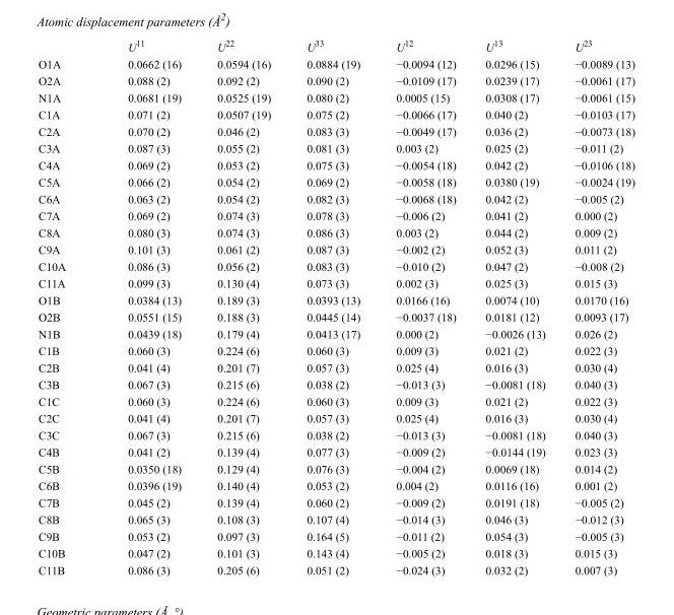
<table><thead><tr><td></td><td>U<sup>11</sup></td><td>U<sup>22</sup></td><td>U<sup>33</sup></td><td>U<sup>12</sup></td><td>U<sup>13</sup></td><td>U<sup>23</sup></td></tr></thead><tbody><tr><td>O1A</td><td>0.0662 (16)</td><td>0.0594 (16)</td><td>0.0884 (19)</td><td>−0.0094 (12)</td><td>0.0296 (15)</td><td>−0.0089 (13)</td></tr><tr><td>O2A</td><td>0.088 (2)</td><td>0.092 (2)</td><td>0.090 (2)</td><td>−0.0109 (17)</td><td>0.0239 (17)</td><td>−0.0061 (17)</td></tr><tr><td>N1A</td><td>0.0681 (19)</td><td>0.0525 (19)</td><td>0.080 (2)</td><td>0.0005 (15)</td><td>0.0308 (17)</td><td>−0.0061 (15)</td></tr><tr><td>C1A</td><td>0.071 (2)</td><td>0.0507 (19)</td><td>0.075 (2)</td><td>−0.0066 (17)</td><td>0.040 (2)</td><td>−0.0103 (17)</td></tr><tr><td>C2A</td><td>0.070 (2)</td><td>0.046 (2)</td><td>0.083 (3)</td><td>−0.0049 (17)</td><td>0.036 (2)</td><td>−0.0073 (18)</td></tr><tr><td>C3A</td><td>0.087 (3)</td><td>0.055 (2)</td><td>0.081 (3)</td><td>0.003 (2)</td><td>0.025 (2)</td><td>−0.011 (2)</td></tr><tr><td>C4A</td><td>0.069 (2)</td><td>0.053 (2)</td><td>0.075 (3)</td><td>−0.0054 (18)</td><td>0.042 (2)</td><td>−0.0106 (18)</td></tr><tr><td>C5A</td><td>0.066 (2)</td><td>0.054 (2)</td><td>0.069 (2)</td><td>−0.0058 (18)</td><td>0.0380 (19)</td><td>−0.0024 (19)</td></tr><tr><td>C6A</td><td>0.063 (2)</td><td>0.054 (2)</td><td>0.082 (3)</td><td>−0.0068 (18)</td><td>0.042 (2)</td><td>−0.005 (2)</td></tr><tr><td>C7A</td><td>0.069 (2)</td><td>0.074 (3)</td><td>0.078 (3)</td><td>−0.006 (2)</td><td>0.041 (2)</td><td>0.000 (2)</td></tr><tr><td>C8A</td><td>0.080 (3)</td><td>0.074 (3)</td><td>0.086 (3)</td><td>0.003 (2)</td><td>0.044 (2)</td><td>0.009 (2)</td></tr><tr><td>C9A</td><td>0.101 (3)</td><td>0.061 (2)</td><td>0.087 (3)</td><td>−0.002 (2)</td><td>0.052 (3)</td><td>0.011 (2)</td></tr><tr><td>C10A</td><td>0.086 (3)</td><td>0.056 (2)</td><td>0.083 (3)</td><td>−0.010 (2)</td><td>0.047 (2)</td><td>−0.008 (2)</td></tr><tr><td>C11A</td><td>0.099 (3)</td><td>0.130 (4)</td><td>0.073 (3)</td><td>0.002 (3)</td><td>0.025 (3)</td><td>0.015 (3)</td></tr><tr><td>O1B</td><td>0.0384 (13)</td><td>0.189 (3)</td><td>0.0393 (13)</td><td>0.0166 (16)</td><td>0.0074 (10)</td><td>0.0170 (16)</td></tr><tr><td>O2B</td><td>0.0551 (15)</td><td>0.188 (3)</td><td>0.0445 (14)</td><td>−0.0037 (18)</td><td>0.0181 (12)</td><td>0.0093 (17)</td></tr><tr><td>N1B</td><td>0.0439 (18)</td><td>0.179 (4)</td><td>0.0413 (17)</td><td>0.000 (2)</td><td>−0.0026 (13)</td><td>0.026 (2)</td></tr><tr><td>C1B</td><td>0.060 (3)</td><td>0.224 (6)</td><td>0.060 (3)</td><td>0.009 (3)</td><td>0.021 (2)</td><td>0.022 (3)</td></tr><tr><td>C2B</td><td>0.041 (4)</td><td>0.201 (7)</td><td>0.057 (3)</td><td>0.025 (4)</td><td>0.016 (3)</td><td>0.030 (4)</td></tr><tr><td>C3B</td><td>0.067 (3)</td><td>0.215 (6)</td><td>0.038 (2)</td><td>−0.013 (3)</td><td>−0.0081 (18)</td><td>0.040 (3)</td></tr><tr><td>C1C</td><td>0.060 (3)</td><td>0.224 (6)</td><td>0.060 (3)</td><td>0.009 (3)</td><td>0.021 (2)</td><td>0.022 (3)</td></tr><tr><td>C2C</td><td>0.041 (4)</td><td>0.201 (7)</td><td>0.057 (3)</td><td>0.025 (4)</td><td>0.016 (3)</td><td>0.030 (4)</td></tr><tr><td>C3C</td><td>0.067 (3)</td><td>0.215 (6)</td><td>0.038 (2)</td><td>−0.013 (3)</td><td>−0.0081 (18)</td><td>0.040 (3)</td></tr><tr><td>C4B</td><td>0.041 (2)</td><td>0.139 (4)</td><td>0.077 (3)</td><td>−0.009 (2)</td><td>−0.0144 (19)</td><td>0.023 (3)</td></tr><tr><td>C5B</td><td>0.0350 (18)</td><td>0.129 (4)</td><td>0.076 (3)</td><td>−0.004 (2)</td><td>0.0069 (18)</td><td>0.014 (2)</td></tr><tr><td>C6B</td><td>0.0396 (19)</td><td>0.140 (4)</td><td>0.053 (2)</td><td>0.004 (2)</td><td>0.0116 (16)</td><td>0.001 (2)</td></tr><tr><td>C7B</td><td>0.045 (2)</td><td>0.139 (4)</td><td>0.060 (2)</td><td>−0.009 (2)</td><td>0.0191 (18)</td><td>−0.005 (2)</td></tr><tr><td>C8B</td><td>0.065 (3)</td><td>0.108 (3)</td><td>0.107 (4)</td><td>−0.014 (3)</td><td>0.046 (3)</td><td>−0.012 (3)</td></tr><tr><td>C9B</td><td>0.053 (2)</td><td>0.097 (3)</td><td>0.164 (5)</td><td>−0.011 (2)</td><td>0.054 (3)</td><td>−0.005 (3)</td></tr><tr><td>C10B</td><td>0.047 (2)</td><td>0.101 (3)</td><td>0.143 (4)</td><td>−0.005 (2)</td><td>0.018 (3)</td><td>0.015 (3)</td></tr><tr><td>C11B</td><td>0.086 (3)</td><td>0.205 (6)</td><td>0.051 (2)</td><td>−0.024 (3)</td><td>0.032 (2)</td><td>0.007 (3)</td></tr></tbody></table>